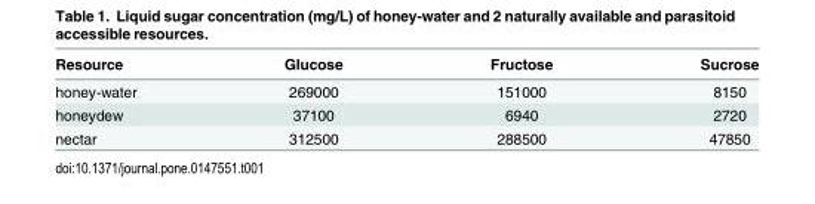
<table><thead><tr><td>Resource</td><td>Glucose</td><td>Fructose</td><td>Sucrose</td></tr></thead><tbody><tr><td>honey-water</td><td>269000</td><td>151000</td><td>8150</td></tr><tr><td>honeydew</td><td>37100</td><td>6940</td><td>2720</td></tr><tr><td>nectar</td><td>312500</td><td>288500</td><td>47850</td></tr></tbody></table>